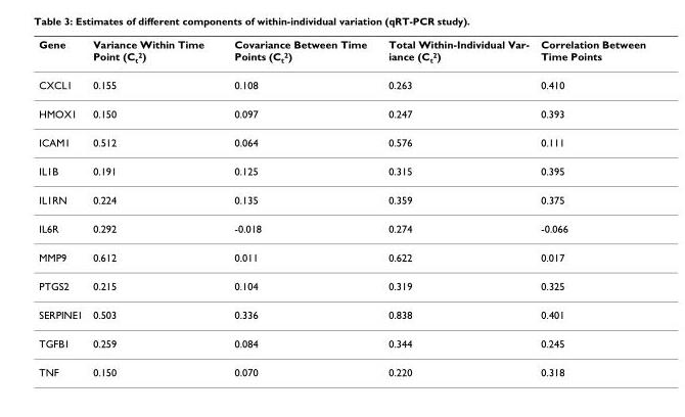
<table><thead><tr><td>Gene</td><td>Variance Within Time Point (C<sub>t</sub><sup>2</sup>)</td><td>Covariance Between Time Points (C<sub>t</sub><sup>2</sup>)</td><td>Total Within-Individual Var- iance (Ct2)</td><td>Correlation Between Time Points</td></tr></thead><tbody><tr><td>CXCL1</td><td>0.155</td><td>0.108</td><td>0.263</td><td>0.410</td></tr><tr><td>HMOX1</td><td>0.150</td><td>0.097</td><td>0.247</td><td>0.393</td></tr><tr><td>ICAM1</td><td>0.512</td><td>0.064</td><td>0.576</td><td>0.111</td></tr><tr><td>IL1B</td><td>0.191</td><td>0.125</td><td>0.315</td><td>0.395</td></tr><tr><td>IL1RN</td><td>0.224</td><td>0.135</td><td>0.359</td><td>0.375</td></tr><tr><td>IL6R</td><td>0.292</td><td>-0.018</td><td>0.274</td><td>-0.066</td></tr><tr><td>MMP9</td><td>0.612</td><td>0.011</td><td>0.622</td><td>0.017</td></tr><tr><td>PTGS2</td><td>0.215</td><td>0.104</td><td>0.319</td><td>0.325</td></tr><tr><td>SERPINE1</td><td>0.503</td><td>0.336</td><td>0.838</td><td>0.401</td></tr><tr><td>TGFB1</td><td>0.259</td><td>0.084</td><td>0.344</td><td>0.245</td></tr><tr><td>TNF</td><td>0.150</td><td>0.070</td><td>0.220</td><td>0.318</td></tr></tbody></table>